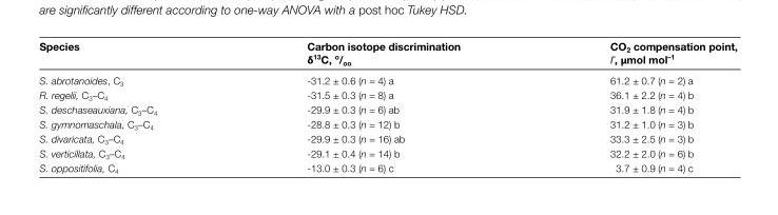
<table><thead><tr><td>Species</td><td>Carbon isotope discrimination δ<sup>13</sup>C, <sup>o</sup>/<sub>oo</sub></td><td>CO<sub>2</sub> compensation point, Г, µmol mol<sup>–1</sup></td></tr></thead><tbody><tr><td>S. abrotanoides, C<sub>3</sub></td><td>-31.2 ± 0.6 (n = 4) a</td><td>61.2 ± 0.7 (n = 2) a</td></tr><tr><td>R. regelii, C<sub>3</sub>–C<sub>4</sub></td><td>-31.5 ± 0.3 (n = 8) a</td><td>36.1 ± 2.2 (n = 4) b</td></tr><tr><td>S. deschaseauxiana, C<sub>3</sub>–C<sub>4</sub></td><td>-29.9 ± 0.3 (n = 6) ab</td><td>31.9 ± 1.8 (n = 4) b</td></tr><tr><td>S. gymnomaschala, C<sub>3</sub>–C<sub>4</sub></td><td>-28.8 ± 0.3 (n = 12) b</td><td>31.2 ± 1.0 (n = 3) b</td></tr><tr><td>S. divaricata, C<sub>3</sub>–C<sub>4</sub></td><td>-29.9 ± 0.3 (n = 16) ab</td><td>33.3 ± 2.5 (n = 3) b</td></tr><tr><td>S. verticillata, C<sub>3</sub>–C<sub>4</sub></td><td>-29.1 ± 0.4 (n = 14) b</td><td>32.2 ± 2.0 (n = 6) b</td></tr><tr><td>S. oppositifolia, C<sub>4</sub></td><td>-13.0 ± 0.3 (n = 6) c</td><td>3.7 ± 0.9 (n = 4) c</td></tr></tbody></table>